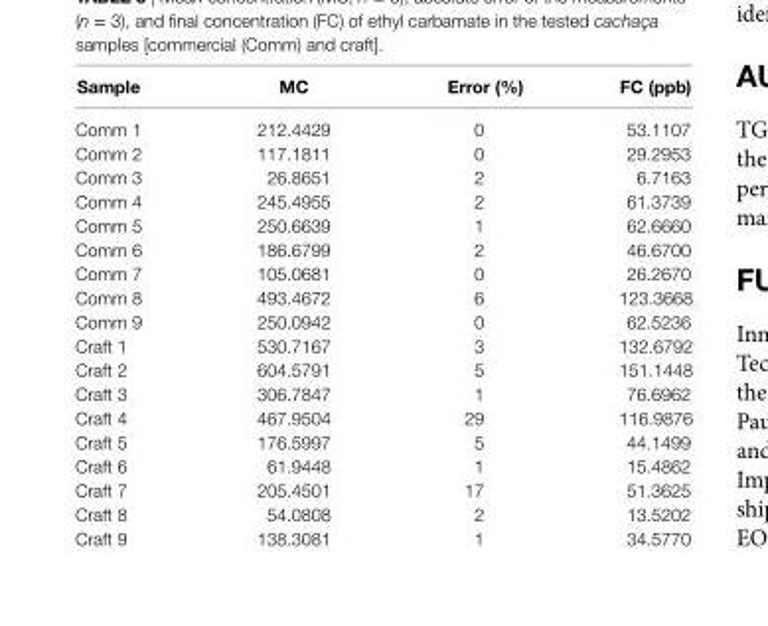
<table><thead><tr><td>sample</td><td>Mc</td><td>error (%)</td><td>Fc (ppb)</td></tr></thead><tbody><tr><td>Comm 1</td><td>212.4429</td><td>0</td><td>53.1107</td></tr><tr><td>Comm 2</td><td>117.1811</td><td>0</td><td>29.2953</td></tr><tr><td>Comm 3</td><td>26.8651</td><td>2</td><td>6.7163</td></tr><tr><td>Comm 4</td><td>245.4955</td><td>2</td><td>61.3739</td></tr><tr><td>Comm 5</td><td>250.6639</td><td>1</td><td>62.6660</td></tr><tr><td>Comm 6</td><td>186.6799</td><td>2</td><td>46.6700</td></tr><tr><td>Comm 7</td><td>105.0681</td><td>0</td><td>26.2670</td></tr><tr><td>Comm 8</td><td>493.4672</td><td>6</td><td>123.3668</td></tr><tr><td>Comm 9</td><td>250.0942</td><td>0</td><td>62.5236</td></tr><tr><td>Craft 1</td><td>530.7167</td><td>3</td><td>132.6792</td></tr><tr><td>Craft 2</td><td>604.5791</td><td>5</td><td>151.1448</td></tr><tr><td>Craft 3</td><td>306.7847</td><td>1</td><td>76.6962</td></tr><tr><td>Craft 4</td><td>467.9504</td><td>29</td><td>116.9876</td></tr><tr><td>Craft 5</td><td>176.5997</td><td>5</td><td>44.1499</td></tr><tr><td>Craft 6</td><td>61.9448</td><td>1</td><td>15.4862</td></tr><tr><td>Craft 7</td><td>205.4501</td><td>17</td><td>51.3625</td></tr><tr><td>Craft 8</td><td>54.0808</td><td>2</td><td>13.5202</td></tr><tr><td>Craft 9</td><td>138.3081</td><td>1</td><td>34.5770</td></tr></tbody></table>